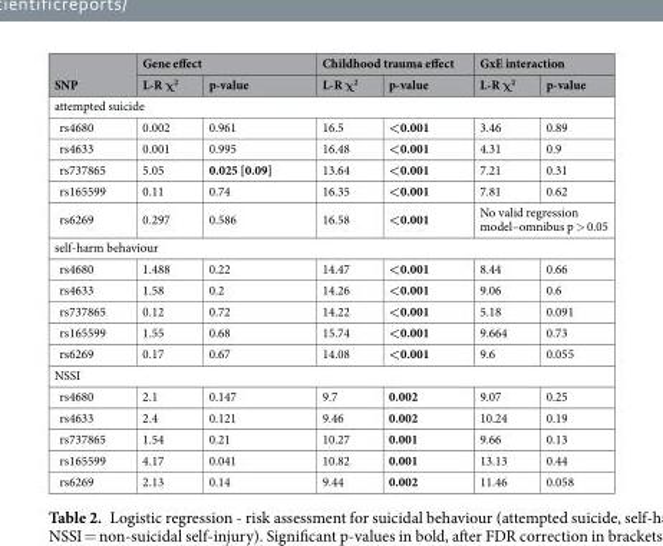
<table><thead><tr><td rowspan="2">SNP</td><td colspan="2">Gene effect</td><td colspan="2">Childhood trauma effect</td><td colspan="2">GxE interaction</td></tr><tr><td>L-R χ<sup>2</sup></td><td>p-value</td><td>L-R χ<sup>2</sup></td><td>p-value</td><td>L-R χ<sup>2</sup></td><td>p-value</td></tr></thead><tbody><tr><td colspan="7">attempted suicide</td></tr><tr><td>rs4680</td><td>0.002</td><td>0.961</td><td>16.5</td><td>&lt;0.001</td><td>3.46</td><td>0.89</td></tr><tr><td>rs4633</td><td>0.001</td><td>0.995</td><td>16.48</td><td>&lt;0.001</td><td>4.31</td><td>0.9</td></tr><tr><td>rs737865</td><td>5.05</td><td>0.025 [0.09]</td><td>13.64</td><td>&lt;0.001</td><td>7.21</td><td>0.31</td></tr><tr><td>rs165599</td><td>0.11</td><td>0.74</td><td>16.35</td><td>&lt;0.001</td><td>7.81</td><td>0.62</td></tr><tr><td>rs6269</td><td>0.297</td><td>0.586</td><td>16.58</td><td>&lt;0.001</td><td colspan="2">No valid regression model–omnibus p &gt; 0.05</td></tr><tr><td colspan="7">self-harm behaviour</td></tr><tr><td>rs4680</td><td>1.488</td><td>0.22</td><td>14.47</td><td>&lt;0.001</td><td>8.44</td><td>0.66</td></tr><tr><td>rs4633</td><td>1.58</td><td>0.2</td><td>14.26</td><td>&lt;0.001</td><td>9.06</td><td>0.6</td></tr><tr><td>rs737865</td><td>0.12</td><td>0.72</td><td>14.22</td><td>&lt;0.001</td><td>5.18</td><td>0.091</td></tr><tr><td>rs165599</td><td>1.55</td><td>0.68</td><td>15.74</td><td>&lt;0.001</td><td>9.664</td><td>0.73</td></tr><tr><td>rs6269</td><td>0.17</td><td>0.67</td><td>14.08</td><td>&lt;0.001</td><td>9.6</td><td>0.055</td></tr><tr><td colspan="7">NSSI</td></tr><tr><td>rs4680</td><td>2.1</td><td>0.147</td><td>9.7</td><td>0.002</td><td>9.07</td><td>0.25</td></tr><tr><td>rs4633</td><td>2.4</td><td>0.121</td><td>9.46</td><td>0.002</td><td>10.24</td><td>0.19</td></tr><tr><td>rs737865</td><td>1.54</td><td>0.21</td><td>10.27</td><td>0.001</td><td>9.66</td><td>0.13</td></tr><tr><td>rs165599</td><td>4.17</td><td>0.041</td><td>10.82</td><td>0.001</td><td>13.13</td><td>0.44</td></tr><tr><td>rs6269</td><td>2.13</td><td>0.14</td><td>9.44</td><td>0.002</td><td>11.46</td><td>0.058</td></tr></tbody></table>